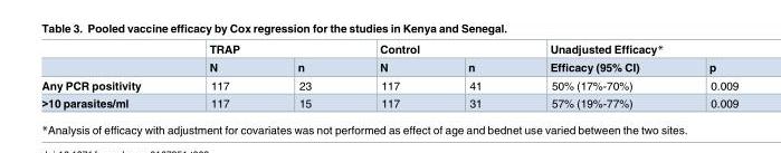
<table><thead><tr><td rowspan="2"></td><td colspan="2">TRAP</td><td colspan="2">Control</td><td colspan="2">Unadjusted Efficacy*</td></tr><tr><td>N</td><td>n</td><td>N</td><td>n</td><td>Efficacy (95% CI)</td><td>p</td></tr></thead><tbody><tr><td>Any PCR positivity</td><td>117</td><td>23</td><td>117</td><td>41</td><td>50% (17%-70%)</td><td>0.009</td></tr><tr><td>&gt;10 parasites/ml</td><td>117</td><td>15</td><td>117</td><td>31</td><td>57% (19%-77%)</td><td>0.009</td></tr></tbody></table>